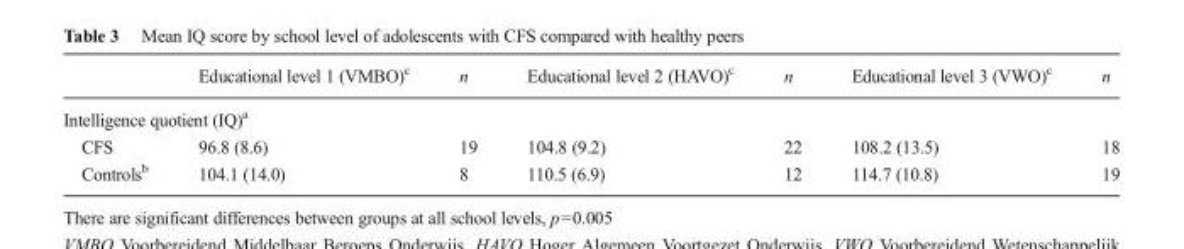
<table><thead><tr><td></td><td>Educational level 1 (VMBO)<sup>c</sup></td><td>n</td><td>Educational level 2 (HAVO)<sup>c</sup></td><td>n</td><td>Educational level 3 (VWO)<sup>c</sup></td><td>n</td></tr></thead><tbody><tr><td colspan="7">Intelligence quotient (IQ)<sup>a</sup></td></tr><tr><td>CFS</td><td>96.8 (8.6)</td><td>19</td><td>104.8 (9.2)</td><td>22</td><td>108.2 (13.5)</td><td>18</td></tr><tr><td>Controls<sup>b</sup></td><td>104.1 (14.0)</td><td>8</td><td>110.5 (6.9)</td><td>12</td><td>114.7 (10.8)</td><td>19</td></tr></tbody></table>